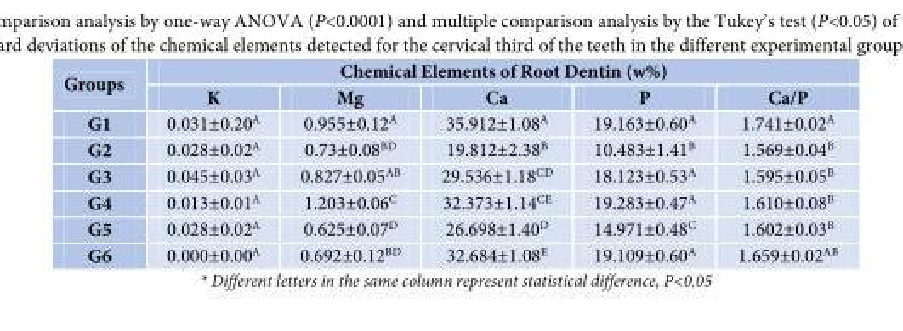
<table><thead><tr><td rowspan="2">Groups</td><td colspan="5">Chemical Elements of Root Dentin (w%)</td></tr><tr><td>K</td><td>Mg</td><td>Ca</td><td>P</td><td>Ca/P</td></tr></thead><tbody><tr><td>G1</td><td>0.031±0.20<sup>A</sup></td><td>0.955±0.12<sup>A</sup></td><td>35.912±1.08<sup>A</sup></td><td>19.163±0.60<sup>A</sup></td><td>1.741±0.02<sup>A</sup></td></tr><tr><td>G2</td><td>0.028±0.02<sup>A</sup></td><td>0.73±0.08<sup>BD</sup></td><td>19.812±2.38<sup>B</sup></td><td>10.483±1.41<sup>B</sup></td><td>1.569±0.04<sup>B</sup></td></tr><tr><td>G3</td><td>0.045±0.03<sup>A</sup></td><td>0.827±0.05<sup>AB</sup></td><td>29.536±1.18<sup>CD</sup></td><td>18.123±0.53<sup>A</sup></td><td>1.595±0.05<sup>B</sup></td></tr><tr><td>G4</td><td>0.013±0.01<sup>A</sup></td><td>1.203±0.06<sup>C</sup></td><td>32.373±1.14<sup>CE</sup></td><td>19.283±0.47<sup>A</sup></td><td>1.610±0.08<sup>B</sup></td></tr><tr><td>G5</td><td>0.028±0.02<sup>A</sup></td><td>0.625±0.07<sup>D</sup></td><td>26.698±1.40<sup>D</sup></td><td>14.971±0.48<sup>C</sup></td><td>1.602±0.03<sup>B</sup></td></tr><tr><td>G6</td><td>0.000±0.00<sup>A</sup></td><td>0.692±0.12<sup>BD</sup></td><td>32.684±1.08<sup>E</sup></td><td>19.109±0.60<sup>A</sup></td><td>1.659±0.02<sup>AB</sup></td></tr></tbody></table>